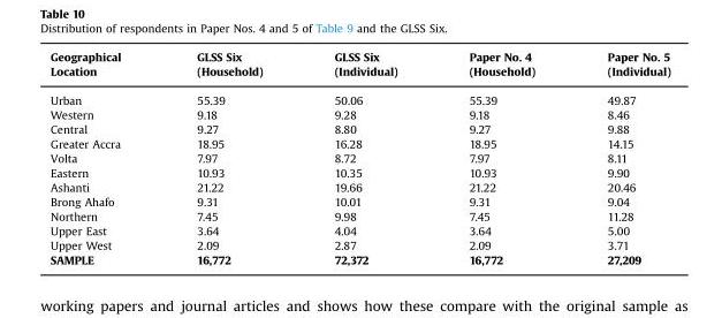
<table><thead><tr><td>Geographical Location</td><td>GLSS Six (Household)</td><td>GLSS Six (Individual)</td><td>Paper No. 4 (Household)</td><td>Paper No. 5 (Individual)</td></tr></thead><tbody><tr><td>Urban</td><td>55.39</td><td>50.06</td><td>55.39</td><td>49.87</td></tr><tr><td>Western</td><td>9.18</td><td>9.28</td><td>9.18</td><td>8.46</td></tr><tr><td>Central</td><td>9.27</td><td>8.80</td><td>9.27</td><td>9.88</td></tr><tr><td>Greater Accra</td><td>18.95</td><td>16.28</td><td>18.95</td><td>14.15</td></tr><tr><td>Volta</td><td>7.97</td><td>8.72</td><td>7.97</td><td>8.11</td></tr><tr><td>Eastern</td><td>10.93</td><td>10.35</td><td>10.93</td><td>9.90</td></tr><tr><td>Ashanti</td><td>21.22</td><td>19.66</td><td>21.22</td><td>20.46</td></tr><tr><td>Brong Ahafo</td><td>9.31</td><td>10.01</td><td>9.31</td><td>9.04</td></tr><tr><td>Northern</td><td>7.45</td><td>9.98</td><td>7.45</td><td>11.28</td></tr><tr><td>Upper East</td><td>3.64</td><td>4.04</td><td>3.64</td><td>5.00</td></tr><tr><td>Upper West</td><td>2.09</td><td>2.87</td><td>2.09</td><td>3.71</td></tr><tr><td>SAMPLE</td><td>16,772</td><td>72,372</td><td>16,772</td><td>27,209</td></tr></tbody></table>